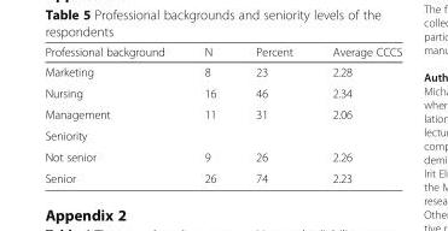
<table><thead><tr><td>Professional background</td><td>N</td><td>Percent</td><td>Average CCCS</td></tr></thead><tbody><tr><td>Marketing</td><td>8</td><td>23</td><td>2.28</td></tr><tr><td>Nursing</td><td>16</td><td>46</td><td>2.34</td></tr><tr><td>Management</td><td>11</td><td>31</td><td>2.06</td></tr><tr><td colspan="4">Seniority</td></tr><tr><td>Not senior</td><td>9</td><td>26</td><td>2.26</td></tr><tr><td>Senior</td><td>26</td><td>74</td><td>2.23</td></tr></tbody></table>